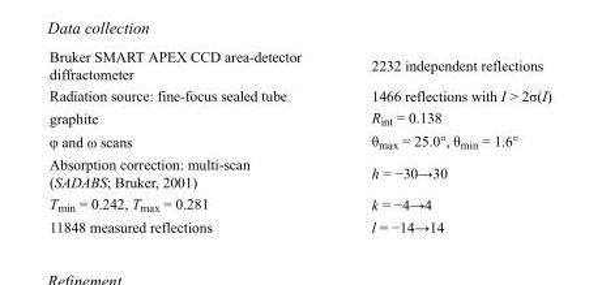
<table><tbody><tr><td>Bruker SMART APEX CCD area-detector diffractometer</td><td>2232 independent reflections</td></tr><tr><td>Radiation source: fine-focus sealed tube</td><td>1466 reflections with I &gt; 2σ(I)</td></tr><tr><td>graphite</td><td>R<sub>int</sub> = 0.138</td></tr><tr><td>φ and ω scans</td><td>θ<sub>max</sub> = 25.0°, θ<sub>min</sub> = 1.6°</td></tr><tr><td>Absorption correction: multi-scan (SADABS; Bruker, 2001)</td><td>h = −30→30</td></tr><tr><td>T<sub>min</sub> = 0.242, T<sub>max</sub> = 0.281</td><td>k = −4→4</td></tr><tr><td>11848 measured reflections</td><td>l = −14→14</td></tr></tbody></table>